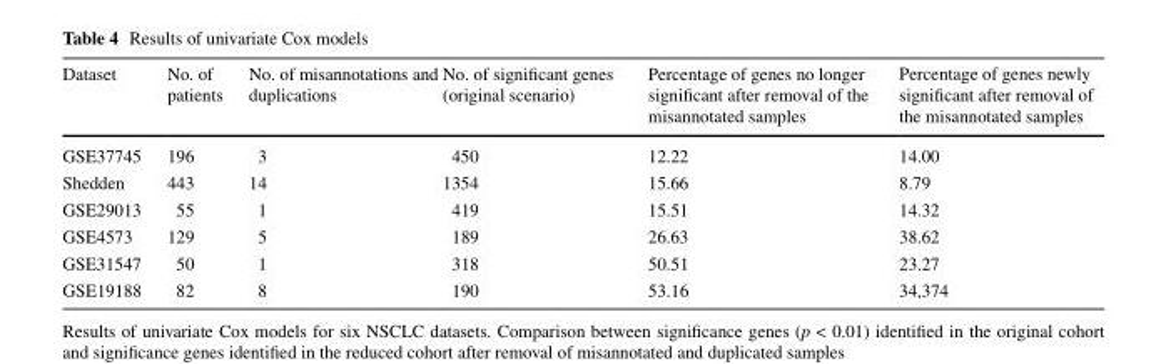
<table><thead><tr><td>Dataset</td><td>No. of patients</td><td>No. of misannotations and duplications</td><td>No. of significant genes (original scenario)</td><td>Percentage of genes no longer significant after removal of the misannotated samples</td><td>Percentage of genes newly significant after removal of the misannotated samples</td></tr></thead><tbody><tr><td>GSE37745</td><td>196</td><td>3</td><td>450</td><td>12.22</td><td>14.00</td></tr><tr><td>Shedden</td><td>443</td><td>14</td><td>1354</td><td>15.66</td><td>8.79</td></tr><tr><td>GSE29013</td><td>55</td><td>1</td><td>419</td><td>15.51</td><td>14.32</td></tr><tr><td>GSE4573</td><td>129</td><td>5</td><td>189</td><td>26.63</td><td>38.62</td></tr><tr><td>GSE31547</td><td>50</td><td>1</td><td>318</td><td>50.51</td><td>23.27</td></tr><tr><td>GSE19188</td><td>82</td><td>8</td><td>190</td><td>53.16</td><td>34,374</td></tr></tbody></table>